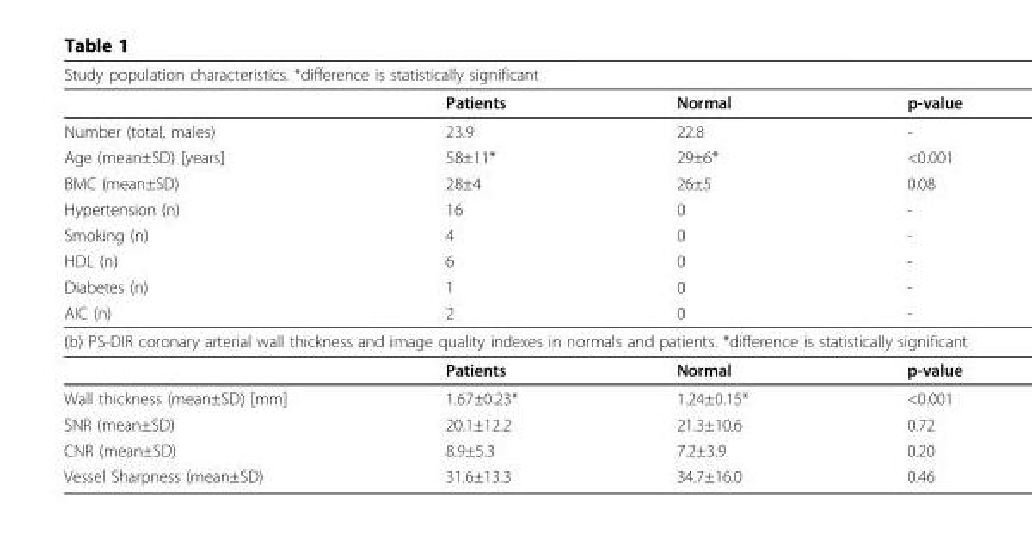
<table><thead><tr><td colspan="4">Study population characteristics. *difference is statistically significant</td></tr><tr><td></td><td>Patients</td><td>Normal</td><td>p-value</td></tr></thead><tbody><tr><td>Number (total, males)</td><td>23.9</td><td>22.8</td><td>-</td></tr><tr><td>Age (mean±SD) [years]</td><td>58±11*</td><td>29±6*</td><td>&lt;0.001</td></tr><tr><td>BMC (mean±SD)</td><td>28±4</td><td>26±5</td><td>0.08</td></tr><tr><td>Hypertension (n)</td><td>16</td><td>0</td><td>-</td></tr><tr><td>Smoking (n)</td><td>4</td><td>0</td><td>-</td></tr><tr><td>HDL (n)</td><td>6</td><td>0</td><td>-</td></tr><tr><td>Diabetes (n)</td><td>1</td><td>0</td><td>-</td></tr><tr><td>AIC (n)</td><td>2</td><td>0</td><td>-</td></tr><tr><td colspan="4">(b) PS-DIR coronary arterial wall thickness and image quality indexes in normals and patients. *difference is statistically significant</td></tr><tr><td></td><td>Patients</td><td>Normal</td><td>p-value</td></tr><tr><td>Wall thickness (mean±SD) [mm]</td><td>1.67±0.23*</td><td>1.24±0.15*</td><td>&lt;0.001</td></tr><tr><td>SNR (mean±SD)</td><td>20.1±12.2</td><td>21.3±10.6</td><td>0.72</td></tr><tr><td>CNR (mean±SD)</td><td>8.9±5.3</td><td>7.2±3.9</td><td>0.20</td></tr><tr><td>Vessel Sharpness (mean±SD)</td><td>31.6±13.3</td><td>34.7±16.0</td><td>0.46</td></tr></tbody></table>